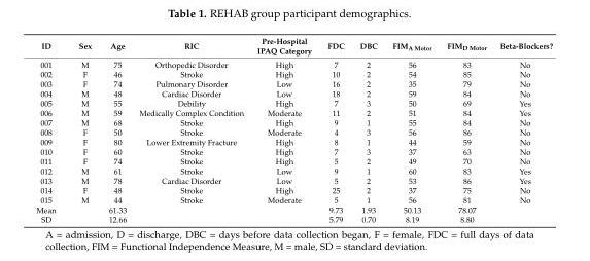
<table><thead><tr><td>ID</td><td>Sex</td><td>Age</td><td>RIC</td><td>Pre-Hospital IPAQ Category</td><td>FDC</td><td>DBC</td><td>FIM<sub>A Motor</sub></td><td>FIM<sub>D Motor</sub></td><td>Beta-Blockers?</td></tr></thead><tbody><tr><td>001</td><td>M</td><td>75</td><td>Orthopedic Disorder</td><td>High</td><td>7</td><td>2</td><td>56</td><td>83</td><td>No</td></tr><tr><td>002</td><td>F</td><td>46</td><td>Stroke</td><td>High</td><td>10</td><td>2</td><td>54</td><td>85</td><td>No</td></tr><tr><td>003</td><td>F</td><td>74</td><td>Pulmonary Disorder</td><td>Low</td><td>16</td><td>2</td><td>35</td><td>79</td><td>No</td></tr><tr><td>004</td><td>M</td><td>48</td><td>Cardiac Disorder</td><td>Low</td><td>18</td><td>2</td><td>59</td><td>84</td><td>No</td></tr><tr><td>005</td><td>M</td><td>55</td><td>Debility</td><td>High</td><td>7</td><td>3</td><td>50</td><td>69</td><td>Yes</td></tr><tr><td>006</td><td>M</td><td>59</td><td>Medically Complex Condition</td><td>Moderate</td><td>11</td><td>2</td><td>51</td><td>84</td><td>Yes</td></tr><tr><td>007</td><td>M</td><td>68</td><td>Stroke</td><td>High</td><td>9</td><td>1</td><td>55</td><td>84</td><td>No</td></tr><tr><td>008</td><td>F</td><td>50</td><td>Stroke</td><td>Moderate</td><td>4</td><td>3</td><td>56</td><td>86</td><td>No</td></tr><tr><td>009</td><td>F</td><td>80</td><td>Lower Extremity Fracture</td><td>High</td><td>8</td><td>1</td><td>44</td><td>59</td><td>No</td></tr><tr><td>010</td><td>F</td><td>60</td><td>Stroke</td><td>High</td><td>7</td><td>3</td><td>37</td><td>63</td><td>No</td></tr><tr><td>011</td><td>F</td><td>74</td><td>Stroke</td><td>High</td><td>5</td><td>2</td><td>49</td><td>70</td><td>No</td></tr><tr><td>012</td><td>M</td><td>61</td><td>Stroke</td><td>Low</td><td>9</td><td>1</td><td>60</td><td>83</td><td>Yes</td></tr><tr><td>013</td><td>M</td><td>78</td><td>Cardiac Disorder</td><td>Low</td><td>5</td><td>2</td><td>53</td><td>86</td><td>Yes</td></tr><tr><td>014</td><td>F</td><td>48</td><td>Stroke</td><td>High</td><td>25</td><td>2</td><td>37</td><td>75</td><td>No</td></tr><tr><td>015</td><td>M</td><td>44</td><td>Stroke</td><td>Moderate</td><td>5</td><td>1</td><td>56</td><td>81</td><td>No</td></tr><tr><td>Mean</td><td></td><td>61.33</td><td></td><td></td><td>9.73</td><td>1.93</td><td>50.13</td><td>78.07</td><td></td></tr><tr><td>SD</td><td></td><td>12.66</td><td></td><td></td><td>5.79</td><td>0.70</td><td>8.19</td><td>8.80</td><td></td></tr></tbody></table>